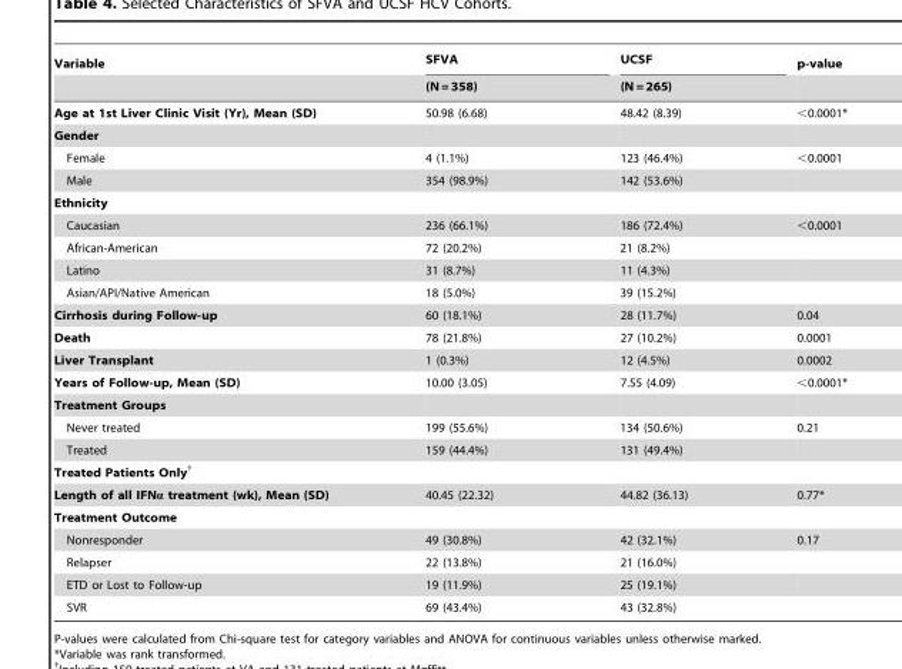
<table><thead><tr><td rowspan="2">Variable</td><td rowspan="2">SFVA (N = 358)</td><td rowspan="2">UCSF (N = 265)</td><td rowspan="2">p-value</td></tr><tr></tr></thead><tbody><tr><td>Age at 1st Liver Clinic Visit (Yr), Mean (SD)</td><td>50.98 (6.68)</td><td>48.42 (8.39)</td><td>&lt;0.0001*</td></tr><tr><td colspan="4">Gender</td></tr><tr><td>Female</td><td>4 (1.1%)</td><td>123 (46.4%)</td><td>&lt;0.0001</td></tr><tr><td>Male</td><td>354 (98.9%)</td><td>142 (53.6%)</td><td></td></tr><tr><td colspan="4">Ethnicity</td></tr><tr><td>Caucasian</td><td>236 (66.1%)</td><td>186 (72.4%)</td><td>&lt;0.0001</td></tr><tr><td>African-American</td><td>72 (20.2%)</td><td>21 (8.2%)</td><td></td></tr><tr><td>Latino</td><td>31 (8.7%)</td><td>11 (4.3%)</td><td></td></tr><tr><td>Asian/API/Native American</td><td>18 (5.0%)</td><td>39 (15.2%)</td><td></td></tr><tr><td>Cirrhosis during Follow-up</td><td>60 (18.1%)</td><td>28 (11.7%)</td><td>0.04</td></tr><tr><td>Death</td><td>78 (21.8%)</td><td>27 (10.2%)</td><td>0.0001</td></tr><tr><td>Liver Transplant</td><td>1 (0.3%)</td><td>12 (4.5%)</td><td>0.0002</td></tr><tr><td>Years of Follow-up, Mean (SD)</td><td>10.00 (3.05)</td><td>7.55 (4.09)</td><td>&lt;0.0001*</td></tr><tr><td colspan="4">Treatment Groups</td></tr><tr><td>Never treated</td><td>199 (55.6%)</td><td>134 (50.6%)</td><td>0.21</td></tr><tr><td>Treated</td><td>159 (44.4%)</td><td>131 (49.4%)</td><td></td></tr><tr><td colspan="4">Treated Patients Only†</td></tr><tr><td>Length of all IFNα treatment (wk), Mean (SD)</td><td>40.45 (22.32)</td><td>44.82 (36.13)</td><td>0.77*</td></tr><tr><td colspan="4">Treatment Outcome</td></tr><tr><td>Nonresponder</td><td>49 (30.8%)</td><td>42 (32.1%)</td><td>0.17</td></tr><tr><td>Relapser</td><td>22 (13.8%)</td><td>21 (16.0%)</td><td></td></tr><tr><td>ETD or Lost to Follow-up</td><td>19 (11.9%)</td><td>25 (19.1%)</td><td></td></tr><tr><td>SVR</td><td>69 (43.4%)</td><td>43 (32.8%)</td><td></td></tr></tbody></table>